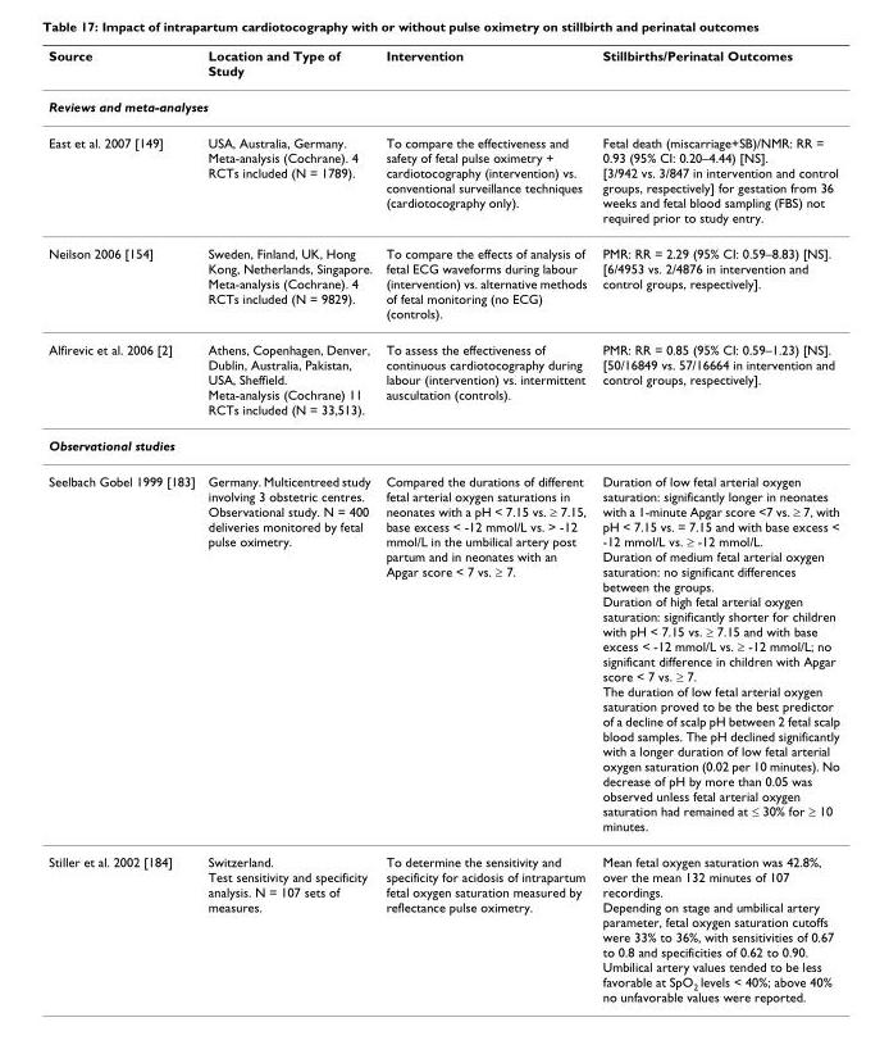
<table><thead><tr><td>Source</td><td>Location and Type of Study</td><td>Intervention</td><td>Stillbirths/Perinatal Outcomes</td></tr></thead><tbody><tr><td colspan="4">Reviews and meta-analyses</td></tr><tr><td>East et al. 2007 [149]</td><td>USA, Australia, Germany. Meta-analysis (Cochrane). 4 RCTs included (N = 1789).</td><td>To compare the effectiveness and safety of fetal pulse oximetry + cardiotocography (intervention) vs. conventional surveillance techniques (cardiotocography only).</td><td>Fetal death (miscarriage+SB)/NMR: RR = 0.93 (95% CI: 0.20–4.44) [NS]. [3/942 vs. 3/847 in intervention and control groups, respectively] for gestation from 36 weeks and fetal blood sampling (FBS) not required prior to study entry.</td></tr><tr><td>Neilson 2006 [154]</td><td>Sweden, Finland, UK, Hong Kong, Netherlands, Singapore. Meta-analysis (Cochrane). 4 RCTs included (N = 9829).</td><td>To compare the effects of analysis of fetal ECG waveforms during labour (intervention) vs. alternative methods of fetal monitoring (no ECG) (controls).</td><td>PMR: RR = 2.29 (95% CI: 0.59–8.83) [NS]. [6/4953 vs. 2/4876 in intervention and control groups, respectively].</td></tr><tr><td>Alfirevic et al. 2006 [2]</td><td>Athens, Copenhagen, Denver, Dublin, Australia, Pakistan, USA, Sheffield. Meta-analysis (Cochrane) 11 RCTs included (N = 33,513).</td><td>To assess the effectiveness of continuous cardiotocography during labour (intervention) vs. intermittent auscultation (controls).</td><td>PMR: RR = 0.85 (95% CI: 0.59–1.23) [NS]. [50/16849 vs. 57/16664 in intervention and control groups, respectively].</td></tr><tr><td colspan="4">Observational studies</td></tr><tr><td>Seelbach Gobel 1999 [183]</td><td>Germany. Multicentreed study involving 3 obstetric centres. Observational study. N = 400 deliveries monitored by fetal pulse oximetry.</td><td>Compared the durations of different fetal arterial oxygen saturations in neonates with a pH &lt; 7.15 vs. ≥ 7.15, base excess &lt; -12 mmol/L vs. &gt; -12 mmol/L in the umbilical artery post partum and in neonates with an Apgar score &lt; 7 vs. ≥ 7.</td><td>Duration of low fetal arterial oxygen saturation: significantly longer in neonates with a 1-minute Apgar score &lt;7 vs. ≥ 7, with pH &lt; 7.15 vs. = 7.15 and with base excess &lt; -12 mmol/L vs. ≥ -12 mmol/L. Duration of medium fetal arterial oxygen saturation: no significant differences between the groups. Duration of high fetal arterial oxygen saturation: significantly shorter for children with pH &lt; 7.15 vs. ≥ 7.15 and with base excess &lt; -12 mmol/L vs. ≥ -12 mmol/L; no significant difference in children with Apgar score &lt; 7 vs. ≥ 7. The duration of low fetal arterial oxygen saturation proved to be the best predictor of a decline of scalp pH between 2 fetal scalp blood samples. The pH declined significantly with a longer duration of low fetal arterial oxygen saturation (0.02 per 10 minutes). No decrease of pH by more than 0.05 was observed unless fetal arterial oxygen saturation had remained at ≤ 30% for ≥ 10 minutes.</td></tr><tr><td>Stiller et al. 2002 [184]</td><td>Switzerland. Test sensitivity and specificity analysis. N = 107 sets of measures.</td><td>To determine the sensitivity and specificity for acidosis of intrapartum fetal oxygen saturation measured by reflectance pulse oximetry.</td><td>Mean fetal oxygen saturation was 42.8%, over the mean 132 minutes of 107 recordings. Depending on stage and umbilical artery parameter, fetal oxygen saturation cutoffs were 33% to 36%, with sensitivities of 0.67 to 0.8 and specificities of 0.62 to 0.90. Umbilical artery values tended to be less favorable at SpO2 levels &lt; 40%; above 40% no unfavorable values were reported.</td></tr></tbody></table>